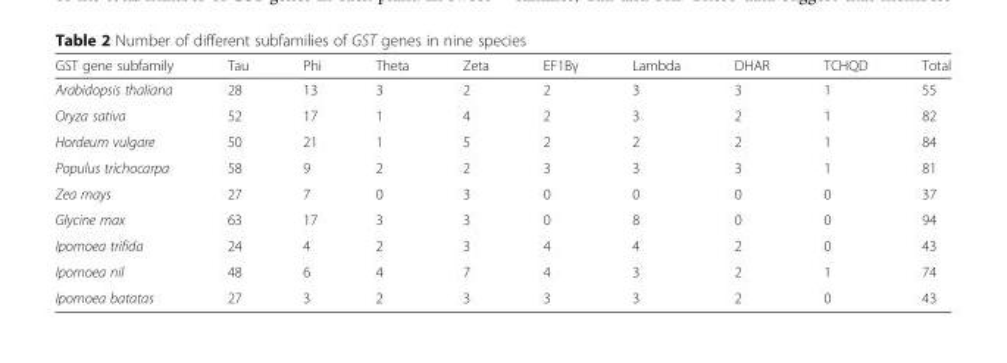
<table><thead><tr><td>GST gene subfamily</td><td>Tau</td><td>Phi</td><td>Theta</td><td>Zeta</td><td>EF1Bγ</td><td>Lambda</td><td>DHAR</td><td>TCHQD</td><td>Total</td></tr></thead><tbody><tr><td>Arabidopsis thaliana</td><td>28</td><td>13</td><td>3</td><td>2</td><td>2</td><td>3</td><td>3</td><td>1</td><td>55</td></tr><tr><td>Oryza sativa</td><td>52</td><td>17</td><td>1</td><td>4</td><td>2</td><td>3</td><td>2</td><td>1</td><td>82</td></tr><tr><td>Hordeum vulgare</td><td>50</td><td>21</td><td>1</td><td>5</td><td>2</td><td>2</td><td>2</td><td>1</td><td>84</td></tr><tr><td>Populus trichocarpa</td><td>58</td><td>9</td><td>2</td><td>2</td><td>3</td><td>3</td><td>3</td><td>1</td><td>81</td></tr><tr><td>Zea mays</td><td>27</td><td>7</td><td>0</td><td>3</td><td>0</td><td>0</td><td>0</td><td>0</td><td>37</td></tr><tr><td>Glycine max</td><td>63</td><td>17</td><td>3</td><td>3</td><td>0</td><td>8</td><td>0</td><td>0</td><td>94</td></tr><tr><td>Ipomoea trifida</td><td>24</td><td>4</td><td>2</td><td>3</td><td>4</td><td>4</td><td>2</td><td>0</td><td>43</td></tr><tr><td>Ipomoea nil</td><td>48</td><td>6</td><td>4</td><td>7</td><td>4</td><td>3</td><td>2</td><td>1</td><td>74</td></tr><tr><td>Ipomoea batatas</td><td>27</td><td>3</td><td>2</td><td>3</td><td>3</td><td>3</td><td>2</td><td>0</td><td>43</td></tr></tbody></table>